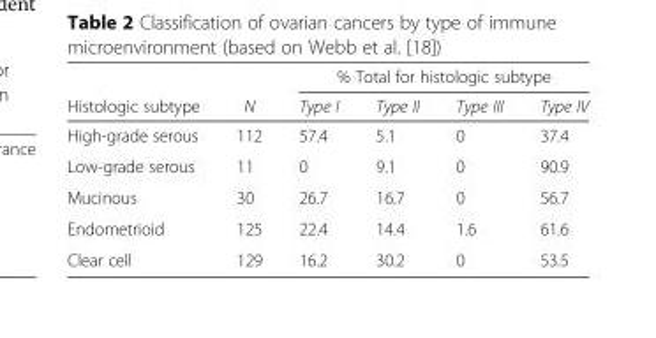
<table><thead><tr><td rowspan="2">Histologic subtype</td><td rowspan="2">N</td><td colspan="4">% Total for histologic subtype</td></tr><tr><td>Type I</td><td>Type II</td><td>Type III</td><td>Type IV</td></tr></thead><tbody><tr><td>High-grade serous</td><td>112</td><td>57.4</td><td>5.1</td><td>0</td><td>37.4</td></tr><tr><td>Low-grade serous</td><td>11</td><td>0</td><td>9.1</td><td>0</td><td>90.9</td></tr><tr><td>Mucinous</td><td>30</td><td>26.7</td><td>16.7</td><td>0</td><td>56.7</td></tr><tr><td>Endometrioid</td><td>125</td><td>22.4</td><td>14.4</td><td>1.6</td><td>61.6</td></tr><tr><td>Clear cell</td><td>129</td><td>16.2</td><td>30.2</td><td>0</td><td>53.5</td></tr></tbody></table>